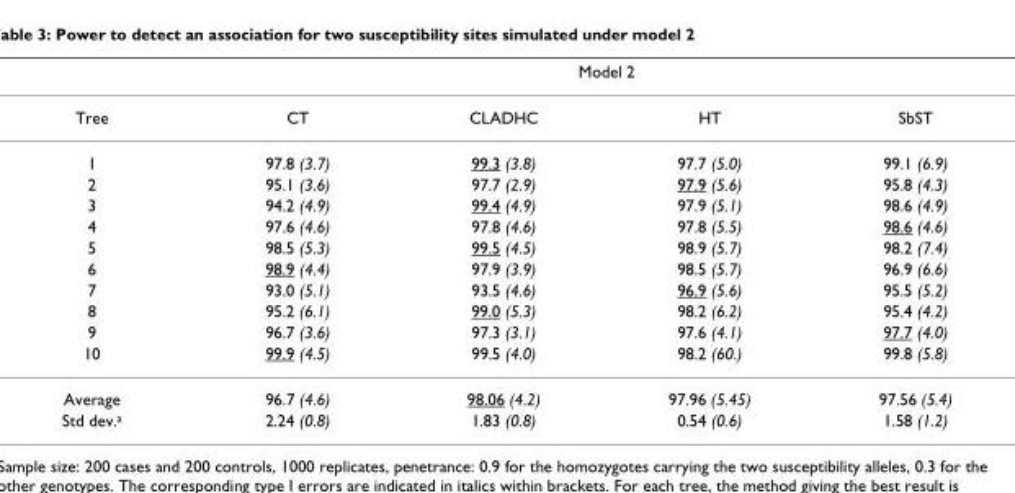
<table><thead><tr><td rowspan="2">Tree</td><td rowspan="2">CT</td><td colspan="2">Model 2</td><td rowspan="2">SbST</td></tr><tr><td>CLADHC</td><td>HT</td></tr></thead><tbody><tr><td>1</td><td>97.8 (3.7)</td><td>99.3 (3.8)</td><td>97.7 (5.0)</td><td>99.1 (6.9)</td></tr><tr><td>2</td><td>95.1 (3.6)</td><td>97.7 (2.9)</td><td>97.9 (5.6)</td><td>95.8 (4.3)</td></tr><tr><td>3</td><td>94.2 (4.9)</td><td>99.4 (4.9)</td><td>97.9 (5.1)</td><td>98.6 (4.9)</td></tr><tr><td>4</td><td>97.6 (4.6)</td><td>97.8 (4.6)</td><td>97.8 (5.5)</td><td>98.6 (4.6)</td></tr><tr><td>5</td><td>98.5 (5.3)</td><td>99.5 (4.5)</td><td>98.9 (5.7)</td><td>98.2 (7.4)</td></tr><tr><td>6</td><td>98.9 (4.4)</td><td>97.9 (3.9)</td><td>98.5 (5.7)</td><td>96.9 (6.6)</td></tr><tr><td>7</td><td>93.0 (5.1)</td><td>93.5 (4.6)</td><td>96.9 (5.6)</td><td>95.5 (5.2)</td></tr><tr><td>8</td><td>95.2 (6.1)</td><td>99.0 (5.3)</td><td>98.2 (6.2)</td><td>95.4 (4.2)</td></tr><tr><td>9</td><td>96.7 (3.6)</td><td>97.3 (3.1)</td><td>97.6 (4.1)</td><td>97.7 (4.0)</td></tr><tr><td>10</td><td>99.9 (4.5)</td><td>99.5 (4.0)</td><td>98.2 (60.)</td><td>99.8 (5.8)</td></tr><tr><td>Average</td><td>96.7 (4.6)</td><td>98.06 (4.2)</td><td>97.96 (5.45)</td><td>97.56 (5.4)</td></tr><tr><td>Std dev.<sup>a</sup></td><td>2.24 (0.8)</td><td>1.83 (0.8)</td><td>0.54 (0.6)</td><td>1.58 (1.2)</td></tr></tbody></table>